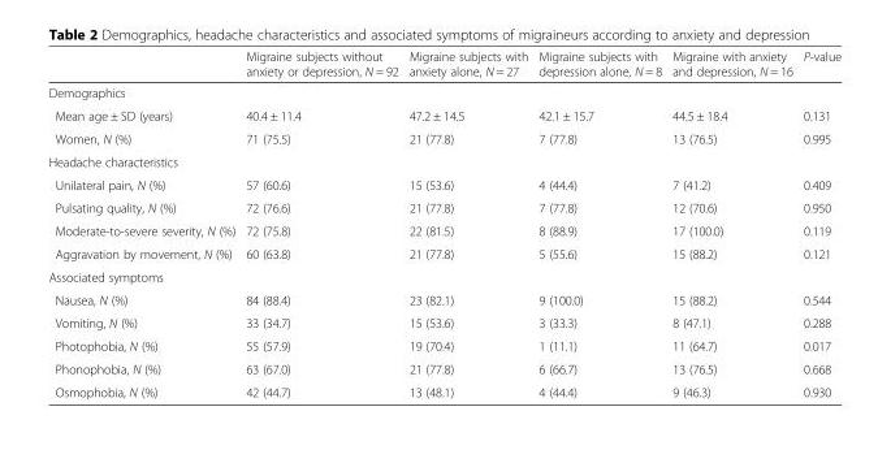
<table><thead><tr><td></td><td>Migraine subjects without anxiety or depression, N = 92</td><td>Migraine subjects with anxiety alone, N = 27</td><td>Migraine subjects with depression alone, N = 8</td><td>Migraine with anxiety and depression, N = 16</td><td>P-value</td></tr></thead><tbody><tr><td colspan="6">Demographics</td></tr><tr><td>Mean age ± SD (years)</td><td>40.4 ± 11.4</td><td>47.2 ± 14.5</td><td>42.1 ± 15.7</td><td>44.5 ± 18.4</td><td>0.131</td></tr><tr><td>Women, N (%)</td><td>71 (75.5)</td><td>21 (77.8)</td><td>7 (77.8)</td><td>13 (76.5)</td><td>0.995</td></tr><tr><td colspan="6">Headache characteristics</td></tr><tr><td>Unilateral pain, N (%)</td><td>57 (60.6)</td><td>15 (53.6)</td><td>4 (44.4)</td><td>7 (41.2)</td><td>0.409</td></tr><tr><td>Pulsating quality, N (%)</td><td>72 (76.6)</td><td>21 (77.8)</td><td>7 (77.8)</td><td>12 (70.6)</td><td>0.950</td></tr><tr><td>Moderate-to-severe severity, N (%)</td><td>72 (75.8)</td><td>22 (81.5)</td><td>8 (88.9)</td><td>17 (100.0)</td><td>0.119</td></tr><tr><td>Aggravation by movement, N (%)</td><td>60 (63.8)</td><td>21 (77.8)</td><td>5 (55.6)</td><td>15 (88.2)</td><td>0.121</td></tr><tr><td colspan="6">Associated symptoms</td></tr><tr><td>Nausea, N (%)</td><td>84 (88.4)</td><td>23 (82.1)</td><td>9 (100.0)</td><td>15 (88.2)</td><td>0.544</td></tr><tr><td>Vomiting, N (%)</td><td>33 (34.7)</td><td>15 (53.6)</td><td>3 (33.3)</td><td>8 (47.1)</td><td>0.288</td></tr><tr><td>Photophobia, N (%)</td><td>55 (57.9)</td><td>19 (70.4)</td><td>1 (11.1)</td><td>11 (64.7)</td><td>0.017</td></tr><tr><td>Phonophobia, N (%)</td><td>63 (67.0)</td><td>21 (77.8)</td><td>6 (66.7)</td><td>13 (76.5)</td><td>0.668</td></tr><tr><td>Osmophobia, N (%)</td><td>42 (44.7)</td><td>13 (48.1)</td><td>4 (44.4)</td><td>9 (46.3)</td><td>0.930</td></tr></tbody></table>